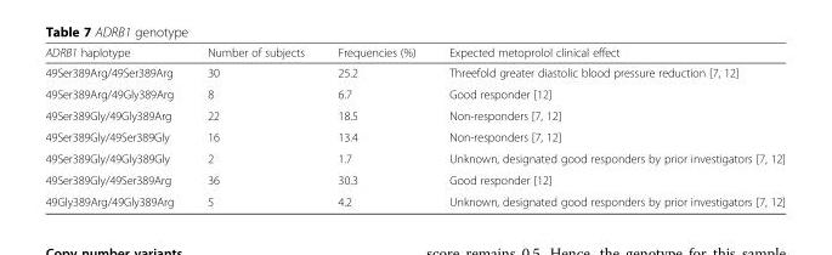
<table><thead><tr><td>ADRB1 haplotype</td><td>Number of subjects</td><td>Frequencies (%)</td><td>Expected metoprolol clinical effect</td></tr></thead><tbody><tr><td>49Ser389Arg/49Ser389Arg</td><td>30</td><td>25.2</td><td>Threefold greater diastolic blood pressure reduction [7, 12]</td></tr><tr><td>49Ser389Arg/49Gly389Arg</td><td>8</td><td>6.7</td><td>Good responder [12]</td></tr><tr><td>49Ser389Gly/49Gly389Arg</td><td>22</td><td>18.5</td><td>Non-responders [7, 12]</td></tr><tr><td>49Ser389Gly/49Ser389Gly</td><td>16</td><td>13.4</td><td>Non-responders [7, 12]</td></tr><tr><td>49Ser389Gly/49Gly389Gly</td><td>2</td><td>1.7</td><td>Unknown, designated good responders by prior investigators [7, 12]</td></tr><tr><td>49Ser389Gly/49Ser389Arg</td><td>36</td><td>30.3</td><td>Good responder [12]</td></tr><tr><td>49Gly389Arg/49Gly389Arg</td><td>5</td><td>4.2</td><td>Unknown, designated good responders by prior investigators [7, 12]</td></tr></tbody></table>